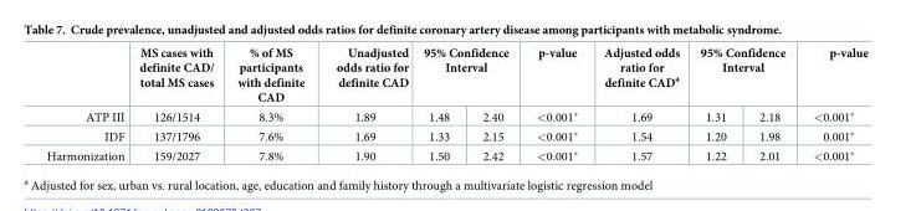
<table><thead><tr><td rowspan="2">ATP III</td><td rowspan="2">MS cases with definite CAD/ total MS cases 126/1514</td><td rowspan="2">% of MS participants with definite CAD 8.3%</td><td rowspan="2">Unadjusted odds ratio for definite CAD 1.89</td><td colspan="2">95% Confidence Interval</td><td rowspan="2">p-value &lt;0.001*</td><td rowspan="2">Adjusted odds ratio for definite CAD<sup>a</sup> 1.69</td><td colspan="2">95% Confidence Interval</td><td rowspan="2">p-value &lt;0.001*</td></tr><tr><td>1.48</td><td>2.40</td><td>1.31</td><td>2.18</td></tr></thead><tbody><tr><td>IDF</td><td>137/1796</td><td>7.6%</td><td>1.69</td><td>1.33</td><td>2.15</td><td>&lt;0.001*</td><td>1.54</td><td>1.20</td><td>1.98</td><td>0.001*</td></tr><tr><td>Harmonization</td><td>159/2027</td><td>7.8%</td><td>1.90</td><td>1.50</td><td>2.42</td><td>&lt;0.001*</td><td>1.57</td><td>1.22</td><td>2.01</td><td>&lt;0.001*</td></tr></tbody></table>